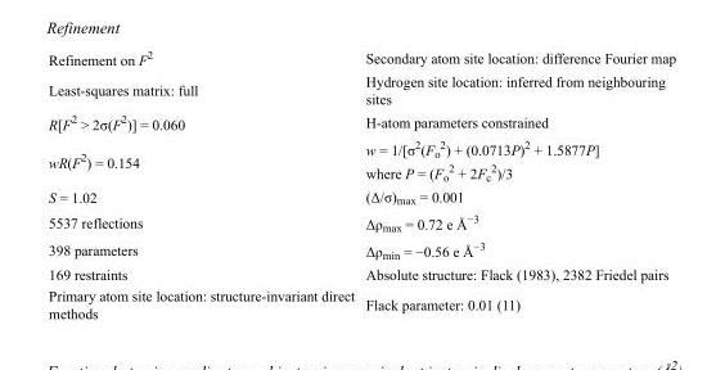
<table><tbody><tr><td>Refinement on F<sup>2</sup></td><td>Secondary atom site location: difference Fourier map</td></tr><tr><td>Least-squares matrix: full</td><td>Hydrogen site location: inferred from neighbouring sites</td></tr><tr><td>R[F<sup>2</sup> &gt; 2σ(F<sup>2</sup>)] = 0.060</td><td>H-atom parameters constrained</td></tr><tr><td>wR(F<sup>2</sup>) = 0.154</td><td>w = 1/[σ<sup>2</sup>(F<sub>o</sub> <sup>2</sup>) + (0.0713P)<sup>2</sup> + 1.5877P] where P = (F<sub>o</sub> <sup>2</sup> + 2F<sub>c</sub> <sup>2</sup>)/3</td></tr><tr><td>S = 1.02</td><td>(Δ/σ)<sub>max</sub> = 0.001</td></tr><tr><td>5537 reflections</td><td>Δρ<sub>max</sub> = 0.72 e Å<sup>−3</sup></td></tr><tr><td>398 parameters</td><td>Δρ<sub>min</sub> = −0.56 e Å<sup>−3</sup></td></tr><tr><td>169 restraints</td><td>Absolute structure: Flack (1983), 2382 Friedel pairs</td></tr><tr><td>Primary atom site location: structure-invariant direct methods</td><td>Flack parameter: 0.01 (11)</td></tr></tbody></table>